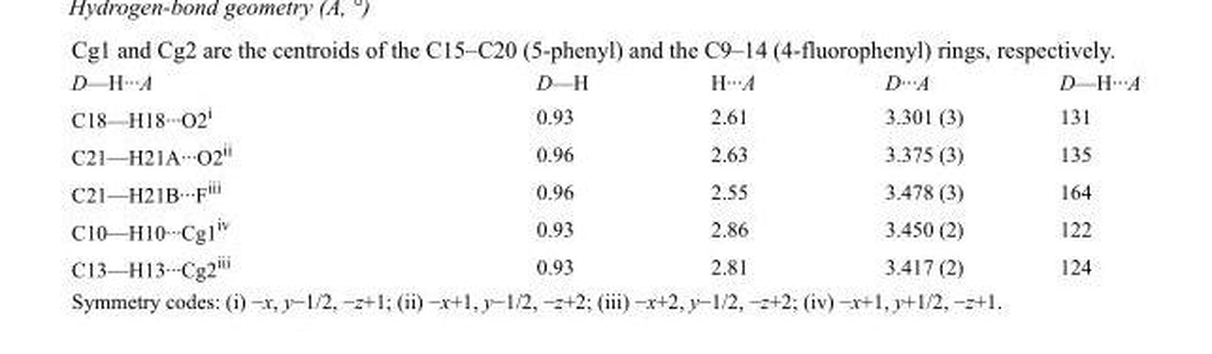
<table><tbody><tr><td>D—H···A</td><td>D—H</td><td>H···A</td><td>D···A</td><td>D—H···A</td></tr><tr><td>C18—H18···O2<sup>i</sup></td><td>0.93</td><td>2.61</td><td>3.301 (3)</td><td>131</td></tr><tr><td>C21—H21A···O2<sup>ii</sup></td><td>0.96</td><td>2.63</td><td>3.375 (3)</td><td>135</td></tr><tr><td>C21—H21B···F<sup>iii</sup></td><td>0.96</td><td>2.55</td><td>3.478 (3)</td><td>164</td></tr><tr><td>C10—H10···Cg1<sup>iv</sup></td><td>0.93</td><td>2.86</td><td>3.450 (2)</td><td>122</td></tr><tr><td>C13—H13···Cg2<sup>iii</sup></td><td>0.93</td><td>2.81</td><td>3.417 (2)</td><td>124</td></tr></tbody></table>